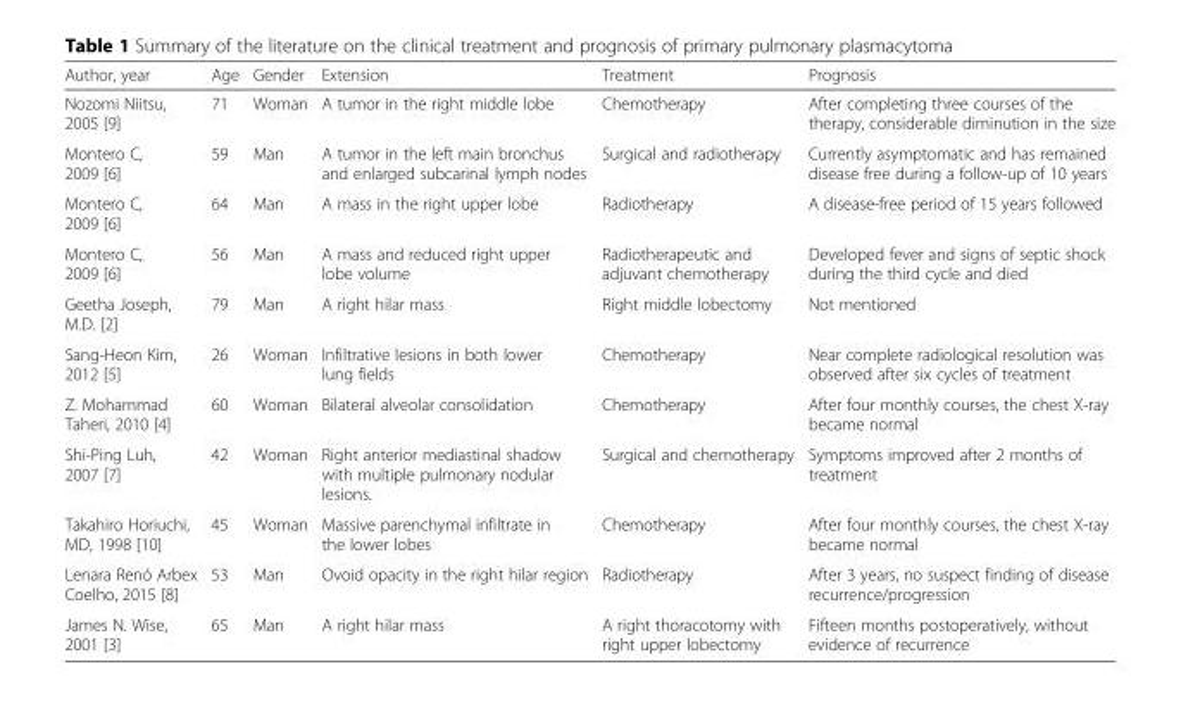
<table><thead><tr><td>Author, year</td><td>Age</td><td>Gender</td><td>Extension</td><td>Treatment</td><td>Prognosis</td></tr></thead><tbody><tr><td>Nozomi Niitsu, 2005 [9]</td><td>71</td><td>Woman</td><td>A tumor in the right middle lobe</td><td>Chemotherapy</td><td>After completing three courses of the therapy, considerable diminution in the size</td></tr><tr><td>Montero C, 2009 [6]</td><td>59</td><td>Man</td><td>A tumor in the left main bronchus and enlarged subcarinal lymph nodes</td><td>Surgical and radiotherapy</td><td>Currently asymptomatic and has remained disease free during a follow-up of 10 years</td></tr><tr><td>Montero C, 2009 [6]</td><td>64</td><td>Man</td><td>A mass in the right upper lobe</td><td>Radiotherapy</td><td>A disease-free period of 15 years followed</td></tr><tr><td>Montero C, 2009 [6]</td><td>56</td><td>Man</td><td>A mass and reduced right upper lobe volume</td><td>Radiotherapeutic and adjuvant chemotherapy</td><td>Developed fever and signs of septic shock during the third cycle and died</td></tr><tr><td>Geetha Joseph, M.D. [2]</td><td>79</td><td>Man</td><td>A right hilar mass</td><td>Right middle lobectomy</td><td>Not mentioned</td></tr><tr><td>Sang-Heon Kim, 2012 [5]</td><td>26</td><td>Woman</td><td>Infiltrative lesions in both lower lung fields</td><td>Chemotherapy</td><td>Near complete radiological resolution was observed after six cycles of treatment</td></tr><tr><td>Z. Mohammad Taheri, 2010 [4]</td><td>60</td><td>Woman</td><td>Bilateral alveolar consolidation</td><td>Chemotherapy</td><td>After four monthly courses, the chest X-ray became normal</td></tr><tr><td>Shi-Ping Luh, 2007 [7]</td><td>42</td><td>Woman</td><td>Right anterior mediastinal shadow with multiple pulmonary nodular lesions.</td><td>Surgical and chemotherapy</td><td>Symptoms improved after 2 months of treatment</td></tr><tr><td>Takahiro Horiuchi, MD, 1998 [10]</td><td>45</td><td>Woman</td><td>Massive parenchymal infiltrate in the lower lobes</td><td>Chemotherapy</td><td>After four monthly courses, the chest X-ray became normal</td></tr><tr><td>Lenara Renó Arbex Coelho, 2015 [8]</td><td>53</td><td>Man</td><td>Ovoid opacity in the right hilar region</td><td>Radiotherapy</td><td>After 3 years, no suspect finding of disease recurrence/progression</td></tr><tr><td>James N. Wise, 2001 [3]</td><td>65</td><td>Man</td><td>A right hilar mass</td><td>A right thoracotomy with right upper lobectomy</td><td>Fifteen months postoperatively, without evidence of recurrence</td></tr></tbody></table>